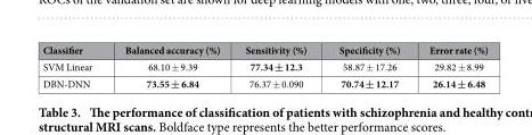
<table><thead><tr><td>Classifier</td><td>Balanced accuracy (%)</td><td>Sensitivity (%)</td><td>Specificity (%)</td><td>Error rate (%)</td></tr></thead><tbody><tr><td>SVM Linear</td><td>68.10 ± 9.39</td><td>77.34 ± 12.3</td><td>58.87 ± 17.26</td><td>29.82 ± 8.99</td></tr><tr><td>DBN-DNN</td><td>73.55 ± 6.84</td><td>76.37 ± 0.090</td><td>70.74 ± 12.17</td><td>26.14 ± 6.48</td></tr></tbody></table>